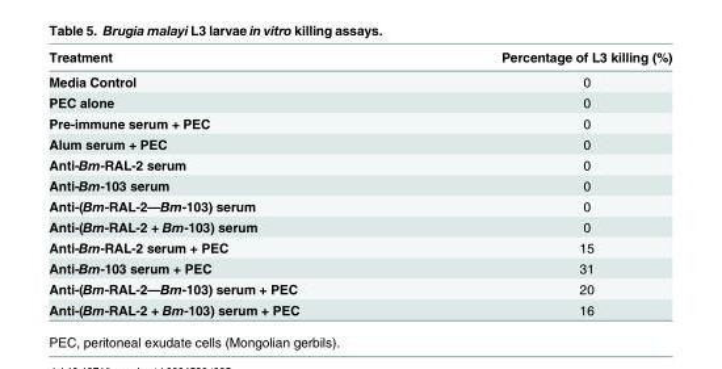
<table><thead><tr><td>Treatment</td><td>Percentage of L3 killing (%)</td></tr></thead><tbody><tr><td>Media Control</td><td>0</td></tr><tr><td>PEC alone</td><td>0</td></tr><tr><td>Pre-immune serum + PEC</td><td>0</td></tr><tr><td>Alum serum + PEC</td><td>0</td></tr><tr><td>Anti-Bm-RAL-2 serum</td><td>0</td></tr><tr><td>Anti-Bm-103 serum</td><td>0</td></tr><tr><td>Anti-(Bm-RAL-2—Bm-103) serum</td><td>0</td></tr><tr><td>Anti-(Bm-RAL-2 + Bm-103) serum</td><td>0</td></tr><tr><td>Anti-Bm-RAL-2 serum + PEC</td><td>15</td></tr><tr><td>Anti-Bm-103 serum + PEC</td><td>31</td></tr><tr><td>Anti-(Bm-RAL-2—Bm-103) serum + PEC</td><td>20</td></tr><tr><td>Anti-(Bm-RAL-2 + Bm-103) serum + PEC</td><td>16</td></tr></tbody></table>